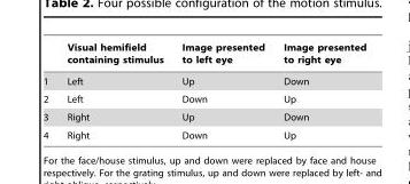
<table><thead><tr><td></td><td>Visual hemifield containing stimulus</td><td>Image presented to left eye</td><td>Image presented to right eye</td></tr></thead><tbody><tr><td>1</td><td>Left</td><td>Up</td><td>Down</td></tr><tr><td>2</td><td>Left</td><td>Down</td><td>Up</td></tr><tr><td>3</td><td>Right</td><td>Up</td><td>Down</td></tr><tr><td>4</td><td>Right</td><td>Down</td><td>Up</td></tr></tbody></table>